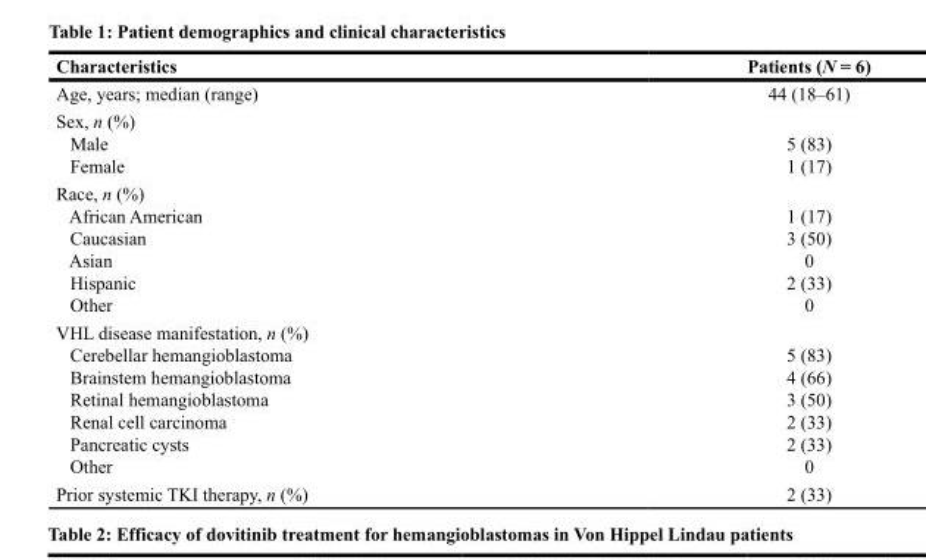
<table><thead><tr><td>Characteristics</td><td>Patients (N = 6)</td></tr></thead><tbody><tr><td>Age, years; median (range)</td><td>44 (18–61)</td></tr><tr><td colspan="2">Sex, n (%)</td></tr><tr><td>Male</td><td>5 (83)</td></tr><tr><td>Female</td><td>1 (17)</td></tr><tr><td colspan="2">Race, n (%)</td></tr><tr><td>African American</td><td>1 (17)</td></tr><tr><td>Caucasian</td><td>3 (50)</td></tr><tr><td>Asian</td><td>0</td></tr><tr><td>Hispanic</td><td>2 (33)</td></tr><tr><td>Other</td><td>0</td></tr><tr><td colspan="2">VHL disease manifestation, n (%)</td></tr><tr><td>Cerebellar hemangioblastoma</td><td>5 (83)</td></tr><tr><td>Brainstem hemangioblastoma</td><td>4 (66)</td></tr><tr><td>Retinal hemangioblastoma</td><td>3 (50)</td></tr><tr><td>Renal cell carcinoma</td><td>2 (33)</td></tr><tr><td>Pancreatic cysts</td><td>2 (33)</td></tr><tr><td>Other</td><td>0</td></tr><tr><td>Prior systemic TKI therapy, n (%)</td><td>2 (33)</td></tr></tbody></table>